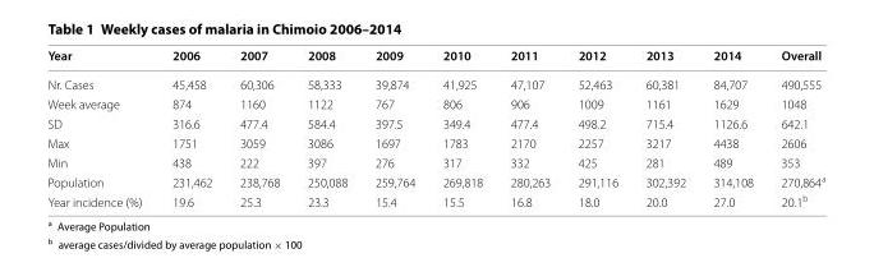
<table><thead><tr><td>Year</td><td>2006</td><td>2007</td><td>2008</td><td>2009</td><td>2010</td><td>2011</td><td>2012</td><td>2013</td><td>2014</td><td>Overall</td></tr></thead><tbody><tr><td>Nr. Cases</td><td>45,458</td><td>60,306</td><td>58,333</td><td>39,874</td><td>41,925</td><td>47,107</td><td>52,463</td><td>60,381</td><td>84,707</td><td>490,555</td></tr><tr><td>Week average</td><td>874</td><td>1160</td><td>1122</td><td>767</td><td>806</td><td>906</td><td>1009</td><td>1161</td><td>1629</td><td>1048</td></tr><tr><td>SD</td><td>316.6</td><td>477.4</td><td>584.4</td><td>397.5</td><td>349.4</td><td>477.4</td><td>498.2</td><td>715.4</td><td>1126.6</td><td>642.1</td></tr><tr><td>Max</td><td>1751</td><td>3059</td><td>3086</td><td>1697</td><td>1783</td><td>2170</td><td>2257</td><td>3217</td><td>4438</td><td>2606</td></tr><tr><td>Min</td><td>438</td><td>222</td><td>397</td><td>276</td><td>317</td><td>332</td><td>425</td><td>281</td><td>489</td><td>353</td></tr><tr><td>Population</td><td>231,462</td><td>238,768</td><td>250,088</td><td>259,764</td><td>269,818</td><td>280,263</td><td>291,116</td><td>302,392</td><td>314,108</td><td>270,864<sup>a</sup></td></tr><tr><td>Year incidence (%)</td><td>19.6</td><td>25.3</td><td>23.3</td><td>15.4</td><td>15.5</td><td>16.8</td><td>18.0</td><td>20.0</td><td>27.0</td><td>20.1<sup>b</sup></td></tr></tbody></table>